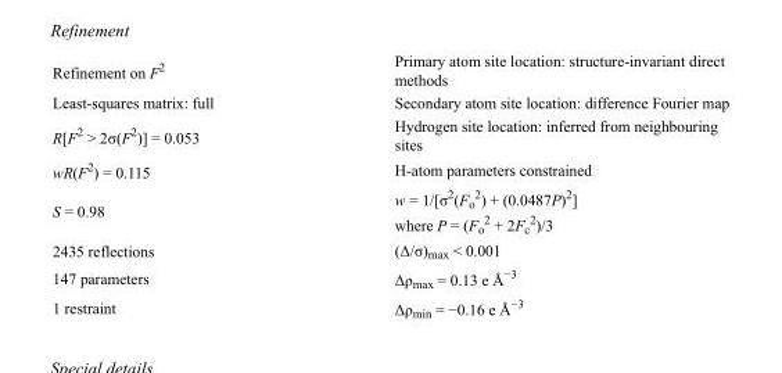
<table><tbody><tr><td>Refinement on F<sup>2</sup></td><td>Primary atom site location: structure-invariant direct methods</td></tr><tr><td>Least-squares matrix: full</td><td>Secondary atom site location: difference Fourier map</td></tr><tr><td>R[F<sup>2</sup> &gt; 2σ(F<sup>2</sup>)] = 0.053</td><td>Hydrogen site location: inferred from neighbouring sites</td></tr><tr><td>wR(F<sup>2</sup>) = 0.115</td><td>H-atom parameters constrained</td></tr><tr><td>S = 0.98</td><td>w = 1/[σ<sup>2</sup>(F<sub>o</sub> <sup>2</sup>) + (0.0487P)<sup>2</sup>] where P = (F<sub>o</sub> <sup>2</sup> + 2F<sub>c</sub> <sup>2</sup>)/3</td></tr><tr><td>2435 reflections</td><td>(Δ/σ)<sub>max</sub> &lt; 0.001</td></tr><tr><td>147 parameters</td><td>Δρ<sub>max</sub> = 0.13 e Å<sup>−3</sup></td></tr><tr><td>1 restraint</td><td>Δρ<sub>min</sub> = −0.16 e Å<sup>−3</sup></td></tr></tbody></table>